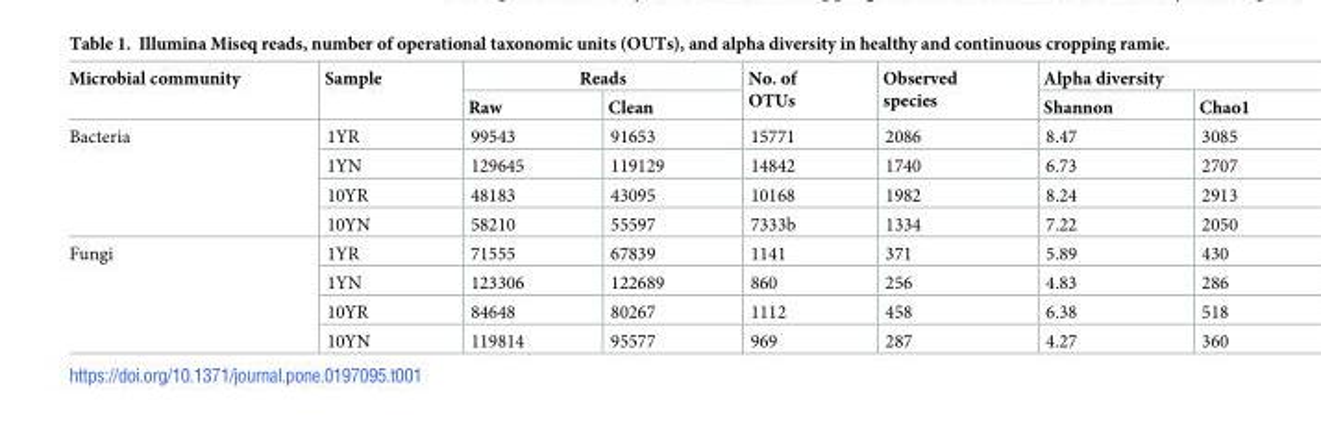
<table><thead><tr><td rowspan="2">Microbial community</td><td rowspan="2">Sample</td><td colspan="2">Reads</td><td rowspan="2">No. of OTUs</td><td rowspan="2">Observed species</td><td colspan="2">Alpha diversity</td></tr><tr><td>Raw</td><td>Clean</td><td>Shannon</td><td>Chao1</td></tr></thead><tbody><tr><td rowspan="4">Bacteria</td><td>1YR</td><td>99543</td><td>91653</td><td>15771</td><td>2086</td><td>8.47</td><td>3085</td></tr><tr><td>1YN</td><td>129645</td><td>119129</td><td>14842</td><td>1740</td><td>6.73</td><td>2707</td></tr><tr><td>10YR</td><td>48183</td><td>43095</td><td>10168</td><td>1982</td><td>8.24</td><td>2913</td></tr><tr><td>10YN</td><td>58210</td><td>55597</td><td>7333b</td><td>1334</td><td>7.22</td><td>2050</td></tr><tr><td rowspan="4">Fungi</td><td>1YR</td><td>71555</td><td>67839</td><td>1141</td><td>371</td><td>5.89</td><td>430</td></tr><tr><td>1YN</td><td>123306</td><td>122689</td><td>860</td><td>256</td><td>4.83</td><td>286</td></tr><tr><td>10YR</td><td>84648</td><td>80267</td><td>1112</td><td>458</td><td>6.38</td><td>518</td></tr><tr><td>10YN</td><td>119814</td><td>95577</td><td>969</td><td>287</td><td>4.27</td><td>360</td></tr></tbody></table>